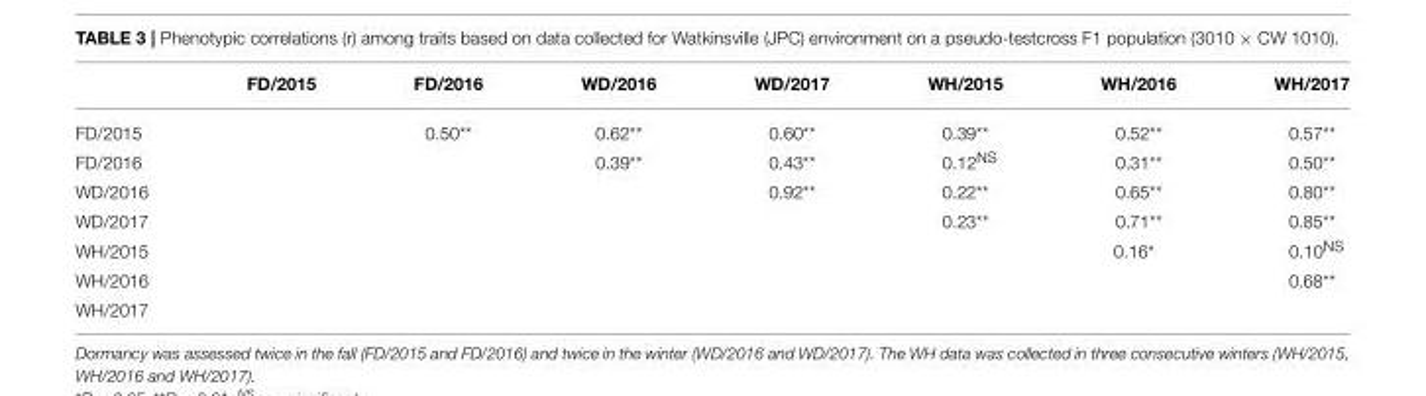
<table><thead><tr><td></td><td>FD/2015</td><td>FD/2016</td><td>WD/2016</td><td>WD/2017</td><td>WH/2015</td><td>WH/2016</td><td>WH/2017</td></tr></thead><tbody><tr><td>FD/2015</td><td></td><td>0.50**</td><td>0.62**</td><td>0.60**</td><td>0.39**</td><td>0.52**</td><td>0.57**</td></tr><tr><td>FD/2016</td><td></td><td></td><td>0.39**</td><td>0.43**</td><td>0.12<sup>NS</sup></td><td>0.31**</td><td>0.50**</td></tr><tr><td>WD/2016</td><td></td><td></td><td></td><td>0.92**</td><td>0.22**</td><td>0.65**</td><td>0.80**</td></tr><tr><td>WD/2017</td><td></td><td></td><td></td><td></td><td>0.23**</td><td>0.71**</td><td>0.85**</td></tr><tr><td>WH/2015</td><td></td><td></td><td></td><td></td><td></td><td>0.16*</td><td>0.10<sup>NS</sup></td></tr><tr><td>WH/2016</td><td></td><td></td><td></td><td></td><td></td><td></td><td>0.68**</td></tr><tr><td>WH/2017</td><td></td><td></td><td></td><td></td><td></td><td></td><td></td></tr></tbody></table>